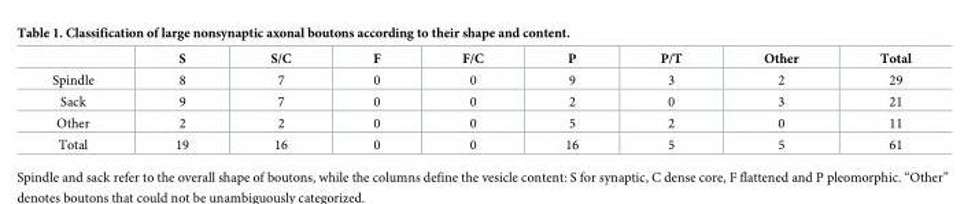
<table><thead><tr><td></td><td>S</td><td>S/C</td><td>F</td><td>F/C</td><td>P</td><td>P/T</td><td>Other</td><td>Total</td></tr></thead><tbody><tr><td>Spindle</td><td>8</td><td>7</td><td>0</td><td>0</td><td>9</td><td>3</td><td>2</td><td>29</td></tr><tr><td>Sack</td><td>9</td><td>7</td><td>0</td><td>0</td><td>2</td><td>0</td><td>3</td><td>21</td></tr><tr><td>Other</td><td>2</td><td>2</td><td>0</td><td>0</td><td>5</td><td>2</td><td>0</td><td>11</td></tr><tr><td>Total</td><td>19</td><td>16</td><td>0</td><td>0</td><td>16</td><td>5</td><td>5</td><td>61</td></tr></tbody></table>